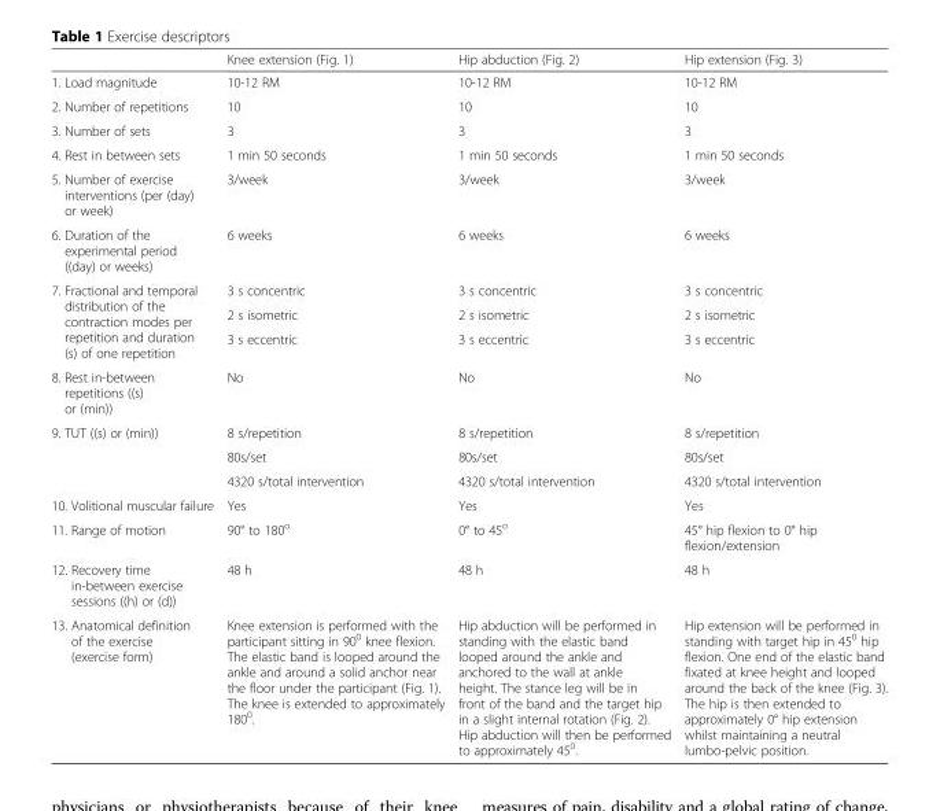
<table><thead><tr><td></td><td>Knee extension (Fig. 1)</td><td>Hip abduction (Fig. 2)</td><td>Hip extension (Fig. 3)</td></tr></thead><tbody><tr><td>1. Load magnitude</td><td>10-12 RM</td><td>10-12 RM</td><td>10-12 RM</td></tr><tr><td>2. Number of repetitions</td><td>10</td><td>10</td><td>10</td></tr><tr><td>3. Number of sets</td><td>3</td><td>3</td><td>3</td></tr><tr><td>4. Rest in between sets</td><td>1 min 50 seconds</td><td>1 min 50 seconds</td><td>1 min 50 seconds</td></tr><tr><td>5. Number of exercise interventions (per (day) or week)</td><td>3/week</td><td>3/week</td><td>3/week</td></tr><tr><td>6. Duration of the experimental period ((day) or weeks)</td><td>6 weeks</td><td>6 weeks</td><td>6 weeks</td></tr><tr><td rowspan="3">7. Fractional and temporal distribution of the contraction modes per repetition and duration (s) of one repetition</td><td>3 s concentric</td><td>3 s concentric</td><td>3 s concentric</td></tr><tr><td>2 s isometric</td><td>2 s isometric</td><td>2 s isometric</td></tr><tr><td>3 s eccentric</td><td>3 s eccentric</td><td>3 s eccentric</td></tr><tr><td>8. Rest in-between repetitions ((s) or (min))</td><td>No</td><td>No</td><td>No</td></tr><tr><td rowspan="3">9. TUT ((s) or (min))</td><td>8 s/repetition</td><td>8 s/repetition</td><td>8 s/repetition</td></tr><tr><td>80s/set</td><td>80s/set</td><td>80s/set</td></tr><tr><td>4320 s/total intervention</td><td>4320 s/total intervention</td><td>4320 s/total intervention</td></tr><tr><td>10. Volitional muscular failure</td><td>Yes</td><td>Yes</td><td>Yes</td></tr><tr><td>11. Range of motion</td><td>90° to 180<sup>o</sup></td><td>0° to 45<sup>o</sup></td><td>45° hip flexion to 0° hip flexion/extension</td></tr><tr><td>12. Recovery time in-between exercise sessions ((h) or (d))</td><td>48 h</td><td>48 h</td><td>48 h</td></tr><tr><td>13. Anatomical definition of the exercise (exercise form)</td><td>Knee extension is performed with the participant sitting in 90<sup>0</sup> knee flexion. The elastic band is looped around the ankle and around a solid anchor near the floor under the participant (Fig. 1). The knee is extended to approximately 180<sup>0</sup>.</td><td>Hip abduction will be performed in standing with the elastic band looped around the ankle and anchored to the wall at ankle height. The stance leg will be in front of the band and the target hip in a slight internal rotation (Fig. 2). Hip abduction will then be performed to approximately 45<sup>0</sup>.</td><td>Hip extension will be performed in standing with target hip in 45<sup>0</sup> hip flexion. One end of the elastic band fixated at knee height and looped around the back of the knee (Fig. 3). The hip is then extended to approximately 0° hip extension whilst maintaining a neutral lumbo-pelvic position.</td></tr></tbody></table>